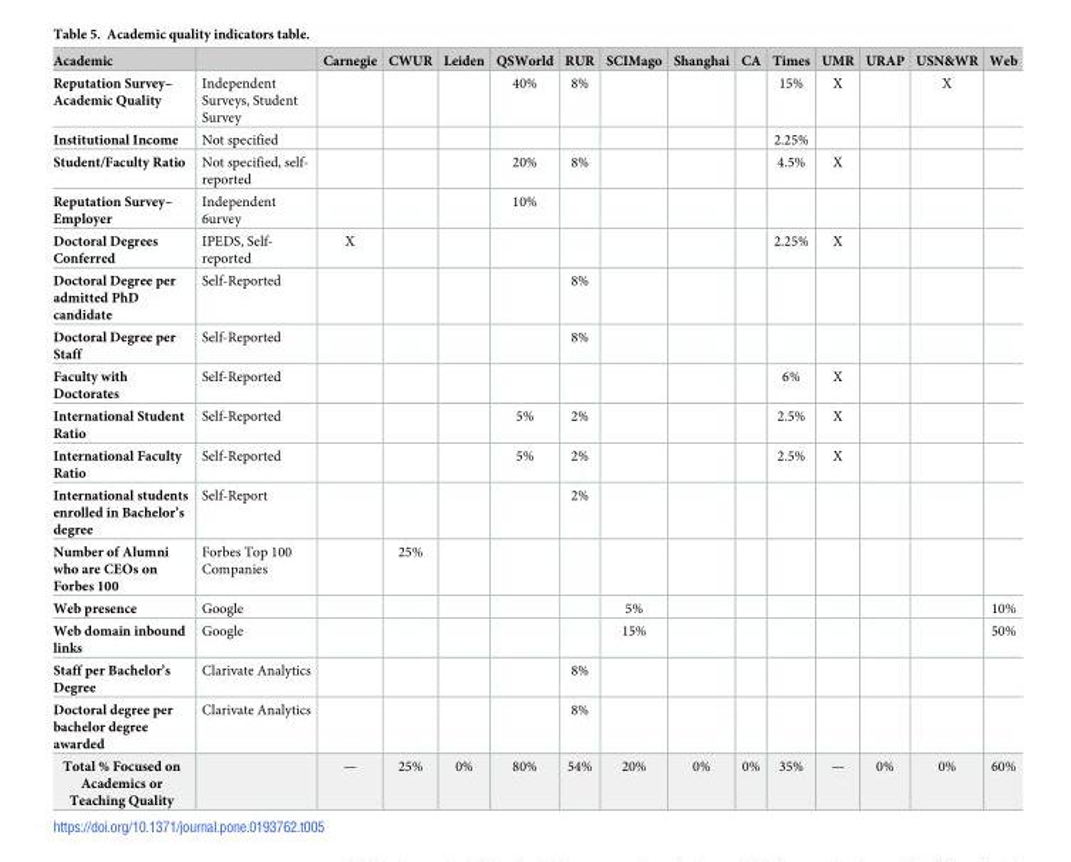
<table><thead><tr><td>Academic</td><td></td><td>Carnegie</td><td>CWUR</td><td>Leiden</td><td>QSWorld</td><td>RUR</td><td>SCIMago</td><td>Shanghai</td><td>CA</td><td>Times</td><td>UMR</td><td>URAP</td><td>USN&amp;WR</td><td>Web</td></tr></thead><tbody><tr><td>Reputation Survey– Academic Quality</td><td>Independent Surveys, Student Survey</td><td></td><td></td><td></td><td>40%</td><td>8%</td><td></td><td></td><td></td><td>15%</td><td>X</td><td></td><td>X</td><td></td></tr><tr><td>Institutional Income</td><td>Not specified</td><td></td><td></td><td></td><td></td><td></td><td></td><td></td><td></td><td>2.25%</td><td></td><td></td><td></td><td></td></tr><tr><td>Student/Faculty Ratio</td><td>Not specified, self- reported</td><td></td><td></td><td></td><td>20%</td><td>8%</td><td></td><td></td><td></td><td>4.5%</td><td>X</td><td></td><td></td><td></td></tr><tr><td>Reputation Survey– Employer</td><td>Independent 6urvey</td><td></td><td></td><td></td><td>10%</td><td></td><td></td><td></td><td></td><td></td><td></td><td></td><td></td><td></td></tr><tr><td>Doctoral Degrees Conferred</td><td>IPEDS, Self- reported</td><td>X</td><td></td><td></td><td></td><td></td><td></td><td></td><td></td><td>2.25%</td><td>X</td><td></td><td></td><td></td></tr><tr><td>Doctoral Degree per admitted PhD candidate</td><td>Self-Reported</td><td></td><td></td><td></td><td></td><td>8%</td><td></td><td></td><td></td><td></td><td></td><td></td><td></td><td></td></tr><tr><td>Doctoral Degree per Staff</td><td>Self-Reported</td><td></td><td></td><td></td><td></td><td>8%</td><td></td><td></td><td></td><td></td><td></td><td></td><td></td><td></td></tr><tr><td>Faculty with Doctorates</td><td>Self-Reported</td><td></td><td></td><td></td><td></td><td></td><td></td><td></td><td></td><td>6%</td><td>X</td><td></td><td></td><td></td></tr><tr><td>International Student Ratio</td><td>Self-Reported</td><td></td><td></td><td></td><td>5%</td><td>2%</td><td></td><td></td><td></td><td>2.5%</td><td>X</td><td></td><td></td><td></td></tr><tr><td>International Faculty Ratio</td><td>Self-Reported</td><td></td><td></td><td></td><td>5%</td><td>2%</td><td></td><td></td><td></td><td>2.5%</td><td>X</td><td></td><td></td><td></td></tr><tr><td>International students enrolled in Bachelor’s degree</td><td>Self-Report</td><td></td><td></td><td></td><td></td><td>2%</td><td></td><td></td><td></td><td></td><td></td><td></td><td></td><td></td></tr><tr><td>Number of Alumni who are CEOs on Forbes 100</td><td>Forbes Top 100 Companies</td><td></td><td>25%</td><td></td><td></td><td></td><td></td><td></td><td></td><td></td><td></td><td></td><td></td><td></td></tr><tr><td>Web presence</td><td>Google</td><td></td><td></td><td></td><td></td><td></td><td>5%</td><td></td><td></td><td></td><td></td><td></td><td></td><td>10%</td></tr><tr><td>Web domain inbound links</td><td>Google</td><td></td><td></td><td></td><td></td><td></td><td>15%</td><td></td><td></td><td></td><td></td><td></td><td></td><td>50%</td></tr><tr><td>Staff per Bachelor’s Degree</td><td>Clarivate Analytics</td><td></td><td></td><td></td><td></td><td>8%</td><td></td><td></td><td></td><td></td><td></td><td></td><td></td><td></td></tr><tr><td>Doctoral degree per bachelor degree awarded</td><td>Clarivate Analytics</td><td></td><td></td><td></td><td></td><td>8%</td><td></td><td></td><td></td><td></td><td></td><td></td><td></td><td></td></tr><tr><td>Total % Focused on Academics or Teaching Quality</td><td></td><td>—</td><td>25%</td><td>0%</td><td>80%</td><td>54%</td><td>20%</td><td>0%</td><td>0%</td><td>35%</td><td>—</td><td>0%</td><td>0%</td><td>60%</td></tr></tbody></table>